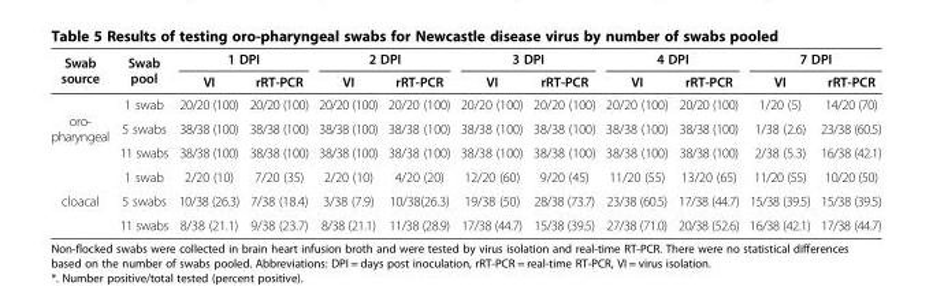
<table><thead><tr><td rowspan="2">Swab source</td><td rowspan="2">Swab pool</td><td colspan="2">1 DPI</td><td colspan="2">2 DPI</td><td colspan="2">3 DPI</td><td colspan="2">4 DPI</td><td colspan="2">7 DPI</td></tr><tr><td>VI</td><td>rRT-PCR</td><td>VI</td><td>rRT-PCR</td><td>VI</td><td>rRT-PCR</td><td>VI</td><td>rRT-PCR</td><td>VI</td><td>rRT-PCR</td></tr></thead><tbody><tr><td rowspan="3">oro- pharyngeal</td><td>1 swab</td><td>20/20 (100)</td><td>20/20 (100)</td><td>20/20 (100)</td><td>20/20 (100)</td><td>20/20 (100)</td><td>20/20 (100)</td><td>20/20 (100)</td><td>20/20 (100)</td><td>1/20 (5)</td><td>14/20 (70)</td></tr><tr><td>5 swabs</td><td>38/38 (100)</td><td>38/38 (100)</td><td>38/38 (100)</td><td>38/38 (100)</td><td>38/38 (100)</td><td>38/38 (100)</td><td>38/38 (100)</td><td>38/38 (100)</td><td>1/38 (2.6)</td><td>23/38 (60.5)</td></tr><tr><td>11 swabs</td><td>38/38 (100)</td><td>38/38 (100)</td><td>38/38 (100)</td><td>38/38 (100)</td><td>38/38 (100)</td><td>38/38 (100)</td><td>38/38 (100)</td><td>38/38 (100)</td><td>2/38 (5.3)</td><td>16/38 (42.1)</td></tr><tr><td rowspan="3">cloacal</td><td>1 swab</td><td>2/20 (10)</td><td>7/20 (35)</td><td>2/20 (10)</td><td>4/20 (20)</td><td>12/20 (60)</td><td>9/20 (45)</td><td>11/20 (55)</td><td>13/20 (65)</td><td>11/20 (55)</td><td>10/20 (50)</td></tr><tr><td>5 swabs</td><td>10/38 (26.3)</td><td>7/38 (18.4)</td><td>3/38 (7.9)</td><td>10/38(26.3)</td><td>19/38 (50)</td><td>28/38 (73.7)</td><td>23/38 (60.5)</td><td>17/38 (44.7)</td><td>15/38 (39.5)</td><td>15/38 (39.5)</td></tr><tr><td>11 swabs</td><td>8/38 (21.1)</td><td>9/38 (23.7)</td><td>8/38 (21.1)</td><td>11/38 (28.9)</td><td>17/38 (44.7)</td><td>15/38 (39.5)</td><td>27/38 (71.0)</td><td>20/38 (52.6)</td><td>16/38 (42.1)</td><td>17/38 (44.7)</td></tr></tbody></table>